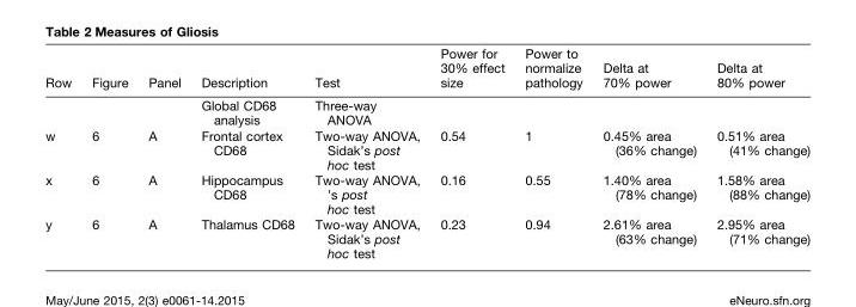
<table><thead><tr><td>Row</td><td>Figure</td><td>Panel</td><td>Description</td><td>Test</td><td>Power for 30% effect size</td><td>Power to normalize pathology</td><td>Delta at 70% power</td><td>Delta at 80% power</td></tr></thead><tbody><tr><td></td><td></td><td></td><td>Global CD68 analysis</td><td>Three-way ANOVA</td><td></td><td></td><td></td><td></td></tr><tr><td>w</td><td>6</td><td>A</td><td>Frontal cortex CD68</td><td>Two-way ANOVA, Sidak’s post hoc test</td><td>0.54</td><td>1</td><td>0.45% area (36% change)</td><td>0.51% area (41% change)</td></tr><tr><td>x</td><td>6</td><td>A</td><td>Hippocampus CD68</td><td>Two-way ANOVA, ’s post hoc test</td><td>0.16</td><td>0.55</td><td>1.40% area (78% change)</td><td>1.58% area (88% change)</td></tr><tr><td>y</td><td>6</td><td>A</td><td>Thalamus CD68</td><td>Two-way ANOVA, Sidak’s post hoc test</td><td>0.23</td><td>0.94</td><td>2.61% area (63% change)</td><td>2.95% area (71% change)</td></tr></tbody></table>